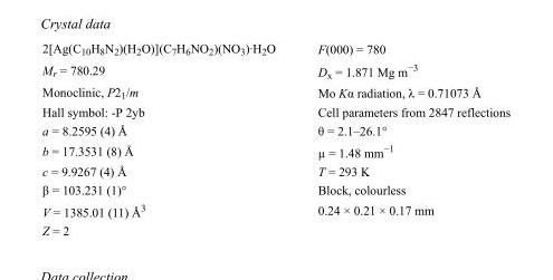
<table><tbody><tr><td>2[Ag(C<sub>10</sub>H<sub>8</sub>N<sub>2</sub>)(H<sub>2</sub>O)](C<sub>7</sub>H<sub>6</sub>NO<sub>2</sub>)(NO<sub>3</sub>)·H<sub>2</sub>O</td><td>F(000) = 780</td></tr><tr><td>M<sub>r</sub> = 780.29</td><td>D<sub>x</sub> = 1.871 Mg m<sup>−3</sup></td></tr><tr><td>Monoclinic, P2<sub>1</sub>/m</td><td>Mo Kα radiation, λ = 0.71073 Å</td></tr><tr><td>Hall symbol: -P 2yb</td><td>Cell parameters from 2847 reflections</td></tr><tr><td>a = 8.2595 (4) Å</td><td>θ = 2.1–26.1°</td></tr><tr><td>b = 17.3531 (8) Å</td><td>µ = 1.48 mm<sup>−1</sup></td></tr><tr><td>c = 9.9267 (4) Å</td><td>T = 293 K</td></tr><tr><td>β = 103.231 (1)°</td><td>Block, colourless</td></tr><tr><td>V = 1385.01 (11) Å<sup>3</sup></td><td>0.24 × 0.21 × 0.17 mm</td></tr><tr><td>Z = 2</td><td></td></tr></tbody></table>